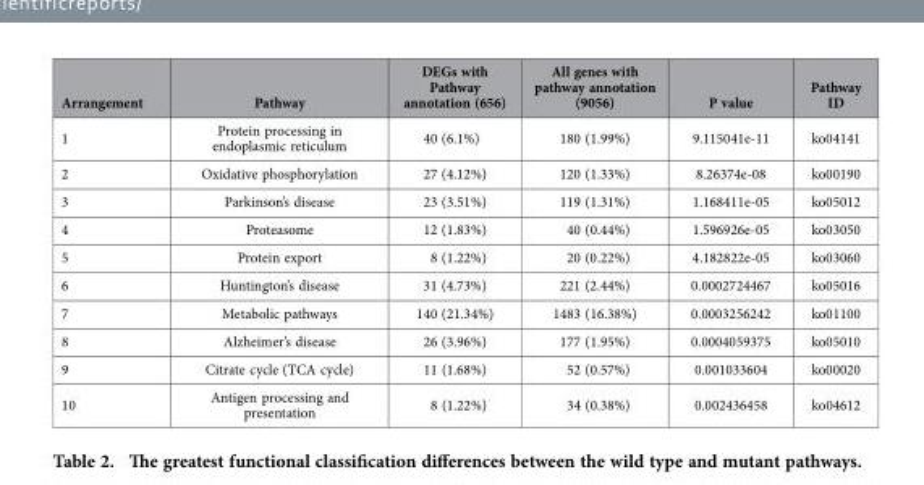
<table><thead><tr><td>Arrangement</td><td>Pathway</td><td>DEGs with Pathway annotation (656)</td><td>All genes with pathway annotation (9056)</td><td>P value</td><td>Pathway ID</td></tr></thead><tbody><tr><td>1</td><td>Protein processing in endoplasmic reticulum</td><td>40 (6.1%)</td><td>180 (1.99%)</td><td>9.115041e-11</td><td>ko04141</td></tr><tr><td>2</td><td>Oxidative phosphorylation</td><td>27 (4.12%)</td><td>120 (1.33%)</td><td>8.26374e-08</td><td>ko00190</td></tr><tr><td>3</td><td>Parkinson’s disease</td><td>23 (3.51%)</td><td>119 (1.31%)</td><td>1.168411e-05</td><td>ko05012</td></tr><tr><td>4</td><td>Proteasome</td><td>12 (1.83%)</td><td>40 (0.44%)</td><td>1.596926e-05</td><td>ko03050</td></tr><tr><td>5</td><td>Protein export</td><td>8 (1.22%)</td><td>20 (0.22%)</td><td>4.182822e-05</td><td>ko03060</td></tr><tr><td>6</td><td>Huntington’s disease</td><td>31 (4.73%)</td><td>221 (2.44%)</td><td>0.0002724467</td><td>ko05016</td></tr><tr><td>7</td><td>Metabolic pathways</td><td>140 (21.34%)</td><td>1483 (16.38%)</td><td>0.0003256242</td><td>ko01100</td></tr><tr><td>8</td><td>Alzheimer’s disease</td><td>26 (3.96%)</td><td>177 (1.95%)</td><td>0.0004059375</td><td>ko05010</td></tr><tr><td>9</td><td>Citrate cycle (TCA cycle)</td><td>11 (1.68%)</td><td>52 (0.57%)</td><td>0.001033604</td><td>ko00020</td></tr><tr><td>10</td><td>Antigen processing and presentation</td><td>8 (1.22%)</td><td>34 (0.38%)</td><td>0.002436458</td><td>ko04612</td></tr></tbody></table>